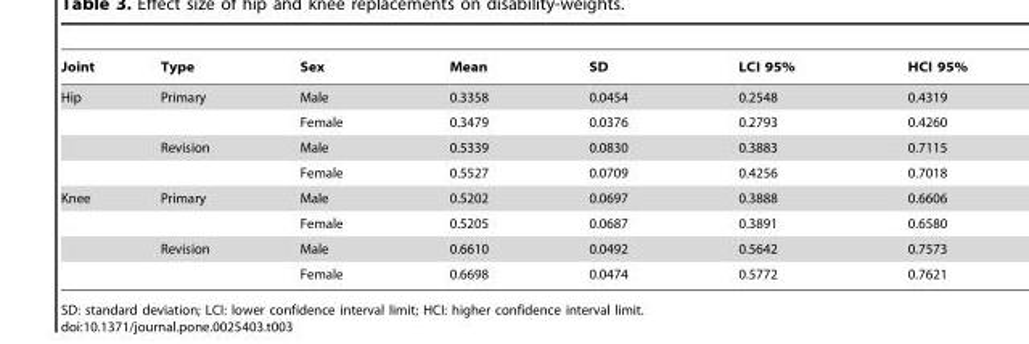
<table><thead><tr><td>Joint</td><td>Type</td><td>Sex</td><td>Mean</td><td>SD</td><td>LCI 95%</td><td>HCI 95%</td></tr></thead><tbody><tr><td rowspan="4">Hip</td><td>Primary</td><td>Male</td><td>0.3358</td><td>0.0454</td><td>0.2548</td><td>0.4319</td></tr><tr><td></td><td>Female</td><td>0.3479</td><td>0.0376</td><td>0.2793</td><td>0.4260</td></tr><tr><td>Revision</td><td>Male</td><td>0.5339</td><td>0.0830</td><td>0.3883</td><td>0.7115</td></tr><tr><td></td><td>Female</td><td>0.5527</td><td>0.0709</td><td>0.4256</td><td>0.7018</td></tr><tr><td rowspan="4">Knee</td><td>Primary</td><td>Male</td><td>0.5202</td><td>0.0697</td><td>0.3888</td><td>0.6606</td></tr><tr><td></td><td>Female</td><td>0.5205</td><td>0.0687</td><td>0.3891</td><td>0.6580</td></tr><tr><td>Revision</td><td>Male</td><td>0.6610</td><td>0.0492</td><td>0.5642</td><td>0.7573</td></tr><tr><td></td><td>Female</td><td>0.6698</td><td>0.0474</td><td>0.5772</td><td>0.7621</td></tr></tbody></table>